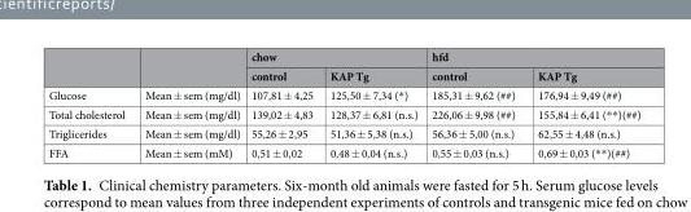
<table><thead><tr><td rowspan="2"></td><td rowspan="2"></td><td colspan="2">chow</td><td colspan="2">hfd</td></tr><tr><td>control</td><td>KAP Tg</td><td>control</td><td>KAP Tg</td></tr></thead><tbody><tr><td>Glucose</td><td>Mean ± sem (mg/dl)</td><td>107,81 ± 4,25</td><td>125,50 ± 7,34 (*)</td><td>185,31 ± 9,62 (##)</td><td>176,94 ± 9,49 (##)</td></tr><tr><td>Total cholesterol</td><td>Mean ± sem (mg/dl)</td><td>139,02 ± 4,83</td><td>128,37 ± 6,81 (n.s.)</td><td>226,06 ± 9,98 (##)</td><td>155,84 ± 6,41 (**)(##)</td></tr><tr><td>Triglicerides</td><td>Mean ± sem (mg/dl)</td><td>55,26 ± 2,95</td><td>51,36 ± 5,38 (n.s.)</td><td>56,36 ± 5,00 (n.s.)</td><td>62,55 ± 4,48 (n.s.)</td></tr><tr><td>FFA</td><td>Mean ± sem (mM)</td><td>0,51 ± 0,02</td><td>0,48 ± 0,04 (n.s.)</td><td>0,55 ± 0,03 (n.s.)</td><td>0,69 ± 0,03 (**)(##)</td></tr></tbody></table>